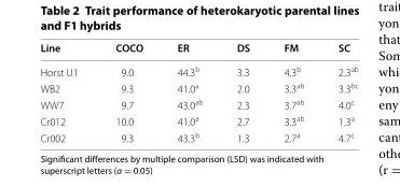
<table><thead><tr><td>Line</td><td>COCO</td><td>ER</td><td>DS</td><td>FM</td><td>SC</td></tr></thead><tbody><tr><td>Horst U1</td><td>9.0</td><td>44.3<sup>b</sup></td><td>3.3</td><td>4.3<sup>b</sup></td><td>2.3<sup>ab</sup></td></tr><tr><td>WB2</td><td>9.3</td><td>41.0<sup>a</sup></td><td>2.0</td><td>3.3<sup>ab</sup></td><td>3.3<sup>bc</sup></td></tr><tr><td>WW7</td><td>9.7</td><td>43.0<sup>ab</sup></td><td>2.3</td><td>3.7<sup>ab</sup></td><td>4.0<sup>c</sup></td></tr><tr><td>Cr012</td><td>10.0</td><td>41.0<sup>a</sup></td><td>2.7</td><td>3.3<sup>ab</sup></td><td>1.3<sup>a</sup></td></tr><tr><td>Cr002</td><td>9.3</td><td>43.3<sup>b</sup></td><td>1.3</td><td>2.7<sup>a</sup></td><td>4.7<sup>c</sup></td></tr></tbody></table>